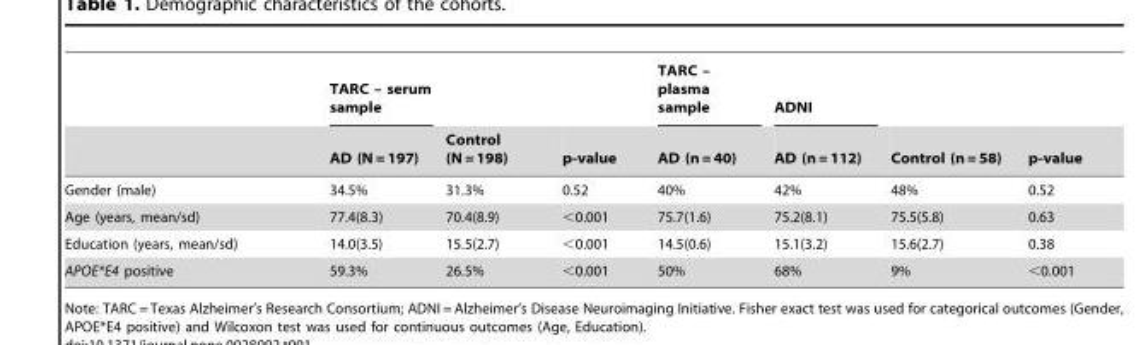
<table><thead><tr><td rowspan="2"></td><td rowspan="2">TARC – serum sample AD (N = 197)</td><td rowspan="2">Control (N = 198)</td><td rowspan="2">p-value</td><td rowspan="2">TARC – plasma sample AD (n = 40)</td><td rowspan="2">ADNI AD (n = 112)</td><td rowspan="2">Control (n = 58)</td><td rowspan="2">p-value</td></tr><tr></tr></thead><tbody><tr><td>Gender (male)</td><td>34.5%</td><td>31.3%</td><td>0.52</td><td>40%</td><td>42%</td><td>48%</td><td>0.52</td></tr><tr><td>Age (years, mean/sd)</td><td>77.4(8.3)</td><td>70.4(8.9)</td><td>&lt;0.001</td><td>75.7(1.6)</td><td>75.2(8.1)</td><td>75.5(5.8)</td><td>0.63</td></tr><tr><td>Education (years, mean/sd)</td><td>14.0(3.5)</td><td>15.5(2.7)</td><td>&lt;0.001</td><td>14.5(0.6)</td><td>15.1(3.2)</td><td>15.6(2.7)</td><td>0.38</td></tr><tr><td>APOE*E4 positive</td><td>59.3%</td><td>26.5%</td><td>&lt;0.001</td><td>50%</td><td>68%</td><td>9%</td><td>&lt;0.001</td></tr></tbody></table>